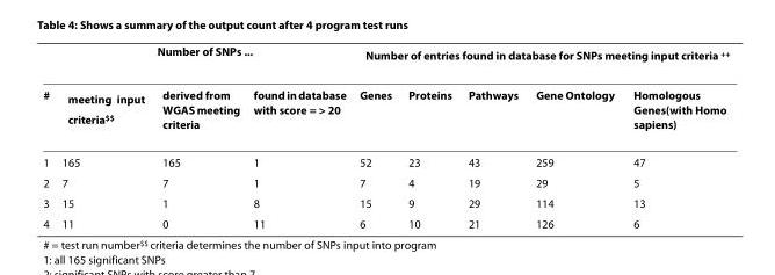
<table><thead><tr><td rowspan="2">#</td><td colspan="3">Number of SNPs ...</td><td colspan="5">Number of entries found in database for SNPs meeting input criteria <sup>++</sup></td></tr><tr><td>meeting input criteria<sup>$$</sup></td><td>derived from WGAS meeting criteria</td><td>found in database with score = &gt; 20</td><td>Genes</td><td>Proteins</td><td>Pathways</td><td>Gene Ontology</td><td>Homologous Genes(with Homo sapiens)</td></tr></thead><tbody><tr><td>1</td><td>165</td><td>165</td><td>1</td><td>52</td><td>23</td><td>43</td><td>259</td><td>47</td></tr><tr><td>2</td><td>7</td><td>7</td><td>1</td><td>7</td><td>4</td><td>19</td><td>29</td><td>5</td></tr><tr><td>3</td><td>15</td><td>1</td><td>8</td><td>15</td><td>9</td><td>29</td><td>114</td><td>13</td></tr><tr><td>4</td><td>11</td><td>0</td><td>11</td><td>6</td><td>10</td><td>21</td><td>126</td><td>6</td></tr></tbody></table>